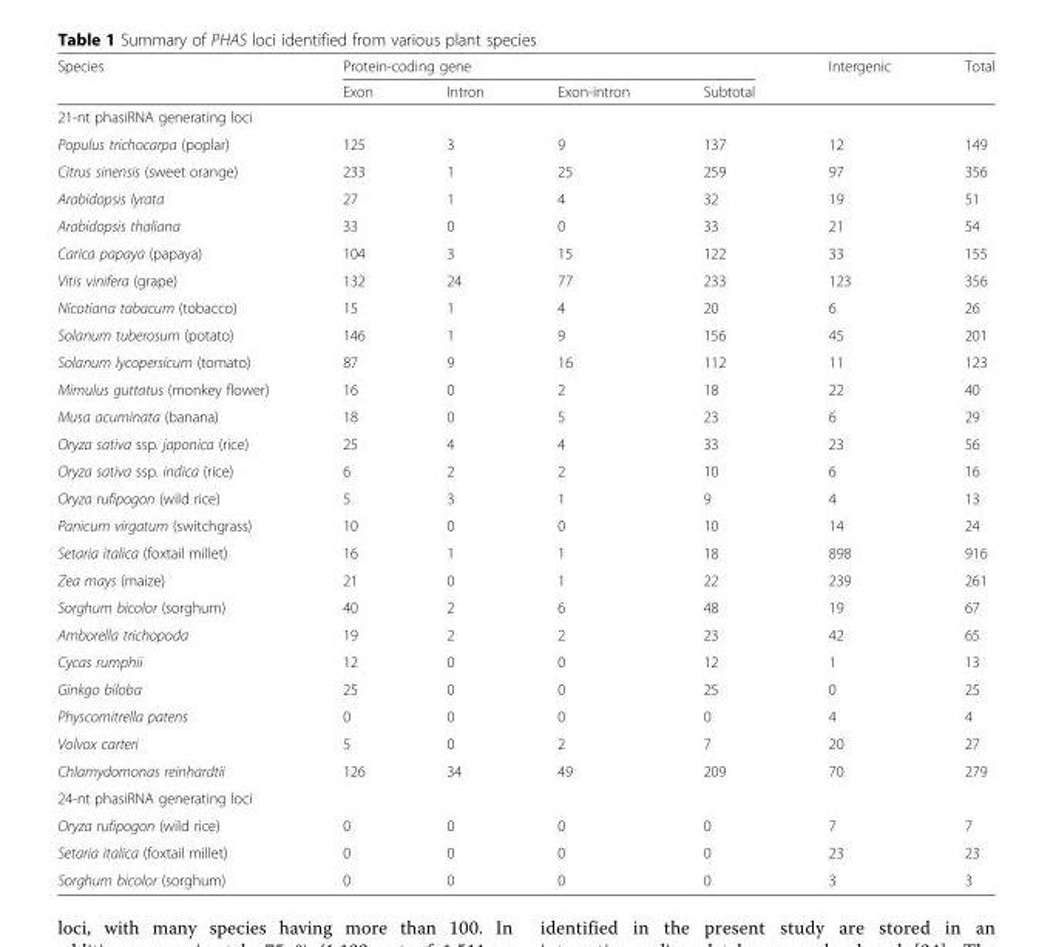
<table><thead><tr><td rowspan="2">Species</td><td colspan="4">Protein-coding gene</td><td rowspan="2">Intergenic</td><td rowspan="2">Total</td></tr><tr><td>Exon</td><td>Intron</td><td>Exon-intron</td><td>Subtotal</td></tr></thead><tbody><tr><td colspan="7">21-nt phasiRNA generating loci</td></tr><tr><td>Populus trichocarpa (poplar)</td><td>125</td><td>3</td><td>9</td><td>137</td><td>12</td><td>149</td></tr><tr><td>Citrus sinensis (sweet orange)</td><td>233</td><td>1</td><td>25</td><td>259</td><td>97</td><td>356</td></tr><tr><td>Arabidopsis lyrata</td><td>27</td><td>1</td><td>4</td><td>32</td><td>19</td><td>51</td></tr><tr><td>Arabidopsis thaliana</td><td>33</td><td>0</td><td>0</td><td>33</td><td>21</td><td>54</td></tr><tr><td>Carica papaya (papaya)</td><td>104</td><td>3</td><td>15</td><td>122</td><td>33</td><td>155</td></tr><tr><td>Vitis vinifera (grape)</td><td>132</td><td>24</td><td>77</td><td>233</td><td>123</td><td>356</td></tr><tr><td>Nicotiana tabacum (tobacco)</td><td>15</td><td>1</td><td>4</td><td>20</td><td>6</td><td>26</td></tr><tr><td>Solanum tuberosum (potato)</td><td>146</td><td>1</td><td>9</td><td>156</td><td>45</td><td>201</td></tr><tr><td>Solanum lycopersicum (tomato)</td><td>87</td><td>9</td><td>16</td><td>112</td><td>11</td><td>123</td></tr><tr><td>Mimulus guttatus (monkey flower)</td><td>16</td><td>0</td><td>2</td><td>18</td><td>22</td><td>40</td></tr><tr><td>Musa acuminata (banana)</td><td>18</td><td>0</td><td>5</td><td>23</td><td>6</td><td>29</td></tr><tr><td>Oryza sativa ssp. japonica (rice)</td><td>25</td><td>4</td><td>4</td><td>33</td><td>23</td><td>56</td></tr><tr><td>Oryza sativa ssp. indica (rice)</td><td>6</td><td>2</td><td>2</td><td>10</td><td>6</td><td>16</td></tr><tr><td>Oryza rufipogon (wild rice)</td><td>5</td><td>3</td><td>1</td><td>9</td><td>4</td><td>13</td></tr><tr><td>Panicum virgatum (switchgrass)</td><td>10</td><td>0</td><td>0</td><td>10</td><td>14</td><td>24</td></tr><tr><td>Setaria italica (foxtail millet)</td><td>16</td><td>1</td><td>1</td><td>18</td><td>898</td><td>916</td></tr><tr><td>Zea mays (maize)</td><td>21</td><td>0</td><td>1</td><td>22</td><td>239</td><td>261</td></tr><tr><td>Sorghum bicolor (sorghum)</td><td>40</td><td>2</td><td>6</td><td>48</td><td>19</td><td>67</td></tr><tr><td>Amborella trichopoda</td><td>19</td><td>2</td><td>2</td><td>23</td><td>42</td><td>65</td></tr><tr><td>Cycas rumphii</td><td>12</td><td>0</td><td>0</td><td>12</td><td>1</td><td>13</td></tr><tr><td>Ginkgo biloba</td><td>25</td><td>0</td><td>0</td><td>25</td><td>0</td><td>25</td></tr><tr><td>Physcomitrella patens</td><td>0</td><td>0</td><td>0</td><td>0</td><td>4</td><td>4</td></tr><tr><td>Volvox carteri</td><td>5</td><td>0</td><td>2</td><td>7</td><td>20</td><td>27</td></tr><tr><td>Chlamydomonas reinhardtii</td><td>126</td><td>34</td><td>49</td><td>209</td><td>70</td><td>279</td></tr><tr><td colspan="7">24-nt phasiRNA generating loci</td></tr><tr><td>Oryza rufipogon (wild rice)</td><td>0</td><td>0</td><td>0</td><td>0</td><td>7</td><td>7</td></tr><tr><td>Setaria italica (foxtail millet)</td><td>0</td><td>0</td><td>0</td><td>0</td><td>23</td><td>23</td></tr><tr><td>Sorghum bicolor (sorghum)</td><td>0</td><td>0</td><td>0</td><td>0</td><td>3</td><td>3</td></tr></tbody></table>